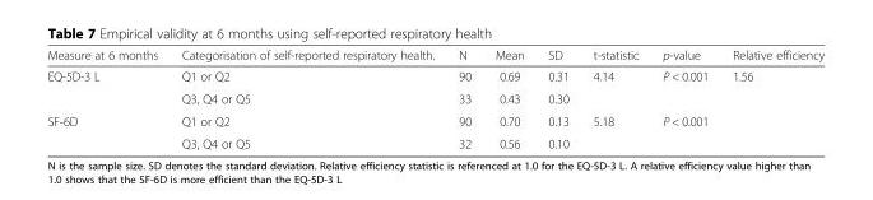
<table><thead><tr><td>Measure at 6 months</td><td>Categorisation of self-reported respiratory health.</td><td>N</td><td>Mean</td><td>SD</td><td>t-statistic</td><td>p-value</td><td>Relative efficiency</td></tr></thead><tbody><tr><td rowspan="2">EQ-5D-3 L</td><td>Q1 or Q2</td><td>90</td><td>0.69</td><td>0.31</td><td rowspan="2">4.14</td><td rowspan="2">P &lt; 0.001</td><td rowspan="4">1.56</td></tr><tr><td>Q3, Q4 or Q5</td><td>33</td><td>0.43</td><td>0.30</td></tr><tr><td rowspan="2">SF-6D</td><td>Q1 or Q2</td><td>90</td><td>0.70</td><td>0.13</td><td rowspan="2">5.18</td><td rowspan="2">P &lt; 0.001</td></tr><tr><td>Q3, Q4 or Q5</td><td>32</td><td>0.56</td><td>0.10</td></tr></tbody></table>